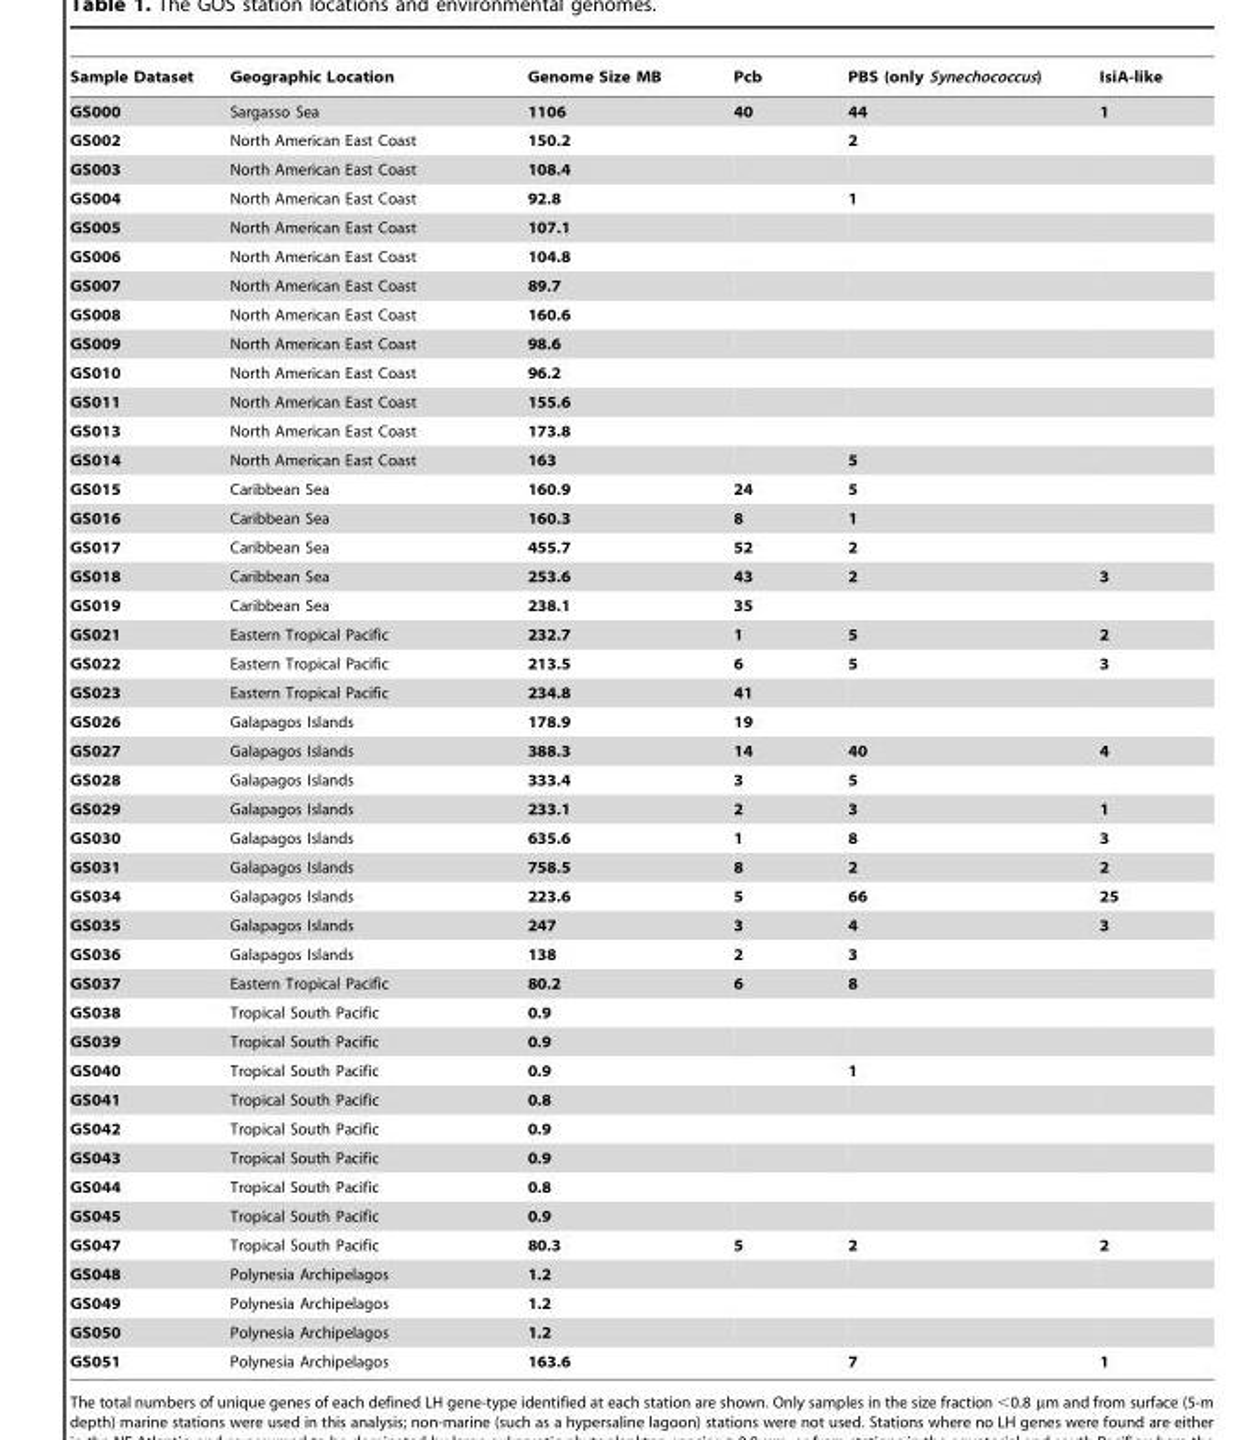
<table><thead><tr><td>Sample Dataset</td><td>Geographic Location</td><td>Genome Size MB</td><td>Pcb</td><td>PBS (only Synechococcus)</td><td>IsiA-like</td></tr></thead><tbody><tr><td>GS000</td><td>Sargasso Sea</td><td>1106</td><td>40</td><td>44</td><td>1</td></tr><tr><td>GS002</td><td>North American East Coast</td><td>150.2</td><td></td><td>2</td><td></td></tr><tr><td>GS003</td><td>North American East Coast</td><td>108.4</td><td></td><td></td><td></td></tr><tr><td>GS004</td><td>North American East Coast</td><td>92.8</td><td></td><td>1</td><td></td></tr><tr><td>GS005</td><td>North American East Coast</td><td>107.1</td><td></td><td></td><td></td></tr><tr><td>GS006</td><td>North American East Coast</td><td>104.8</td><td></td><td></td><td></td></tr><tr><td>GS007</td><td>North American East Coast</td><td>89.7</td><td></td><td></td><td></td></tr><tr><td>GS008</td><td>North American East Coast</td><td>160.6</td><td></td><td></td><td></td></tr><tr><td>GS009</td><td>North American East Coast</td><td>98.6</td><td></td><td></td><td></td></tr><tr><td>GS010</td><td>North American East Coast</td><td>96.2</td><td></td><td></td><td></td></tr><tr><td>GS011</td><td>North American East Coast</td><td>155.6</td><td></td><td></td><td></td></tr><tr><td>GS013</td><td>North American East Coast</td><td>173.8</td><td></td><td></td><td></td></tr><tr><td>GS014</td><td>North American East Coast</td><td>163</td><td></td><td>5</td><td></td></tr><tr><td>GS015</td><td>Caribbean Sea</td><td>160.9</td><td>24</td><td>5</td><td></td></tr><tr><td>GS016</td><td>Caribbean Sea</td><td>160.3</td><td>8</td><td>1</td><td></td></tr><tr><td>GS017</td><td>Caribbean Sea</td><td>455.7</td><td>52</td><td>2</td><td></td></tr><tr><td>GS018</td><td>Caribbean Sea</td><td>253.6</td><td>43</td><td>2</td><td>3</td></tr><tr><td>GS019</td><td>Caribbean Sea</td><td>238.1</td><td>35</td><td></td><td></td></tr><tr><td>GS021</td><td>Eastern Tropical Pacific</td><td>232.7</td><td>1</td><td>5</td><td>2</td></tr><tr><td>GS022</td><td>Eastern Tropical Pacific</td><td>213.5</td><td>6</td><td>5</td><td>3</td></tr><tr><td>GS023</td><td>Eastern Tropical Pacific</td><td>234.8</td><td>41</td><td></td><td></td></tr><tr><td>GS026</td><td>Galapagos Islands</td><td>178.9</td><td>19</td><td></td><td></td></tr><tr><td>GS027</td><td>Galapagos Islands</td><td>388.3</td><td>14</td><td>40</td><td>4</td></tr><tr><td>GS028</td><td>Galapagos Islands</td><td>333.4</td><td>3</td><td>5</td><td></td></tr><tr><td>GS029</td><td>Galapagos Islands</td><td>233.1</td><td>2</td><td>3</td><td>1</td></tr><tr><td>GS030</td><td>Galapagos Islands</td><td>635.6</td><td>1</td><td>8</td><td>3</td></tr><tr><td>GS031</td><td>Galapagos Islands</td><td>758.5</td><td>8</td><td>2</td><td>2</td></tr><tr><td>GS034</td><td>Galapagos Islands</td><td>223.6</td><td>5</td><td>66</td><td>25</td></tr><tr><td>GS035</td><td>Galapagos Islands</td><td>247</td><td>3</td><td>4</td><td>3</td></tr><tr><td>GS036</td><td>Galapagos Islands</td><td>138</td><td>2</td><td>3</td><td></td></tr><tr><td>GS037</td><td>Eastern Tropical Pacific</td><td>80.2</td><td>6</td><td>8</td><td></td></tr><tr><td>GS038</td><td>Tropical South Pacific</td><td>0.9</td><td></td><td></td><td></td></tr><tr><td>GS039</td><td>Tropical South Pacific</td><td>0.9</td><td></td><td></td><td></td></tr><tr><td>GS040</td><td>Tropical South Pacific</td><td>0.9</td><td></td><td>1</td><td></td></tr><tr><td>GS041</td><td>Tropical South Pacific</td><td>0.8</td><td></td><td></td><td></td></tr><tr><td>GS042</td><td>Tropical South Pacific</td><td>0.9</td><td></td><td></td><td></td></tr><tr><td>GS043</td><td>Tropical South Pacific</td><td>0.9</td><td></td><td></td><td></td></tr><tr><td>GS044</td><td>Tropical South Pacific</td><td>0.8</td><td></td><td></td><td></td></tr><tr><td>GS045</td><td>Tropical South Pacific</td><td>0.9</td><td></td><td></td><td></td></tr><tr><td>GS047</td><td>Tropical South Pacific</td><td>80.3</td><td>5</td><td>2</td><td>2</td></tr><tr><td>GS048</td><td>Polynesia Archipelagos</td><td>1.2</td><td></td><td></td><td></td></tr><tr><td>GS049</td><td>Polynesia Archipelagos</td><td>1.2</td><td></td><td></td><td></td></tr><tr><td>GS050</td><td>Polynesia Archipelagos</td><td>1.2</td><td></td><td></td><td></td></tr><tr><td>GS051</td><td>Polynesia Archipelagos</td><td>163.6</td><td></td><td>7</td><td>1</td></tr></tbody></table>